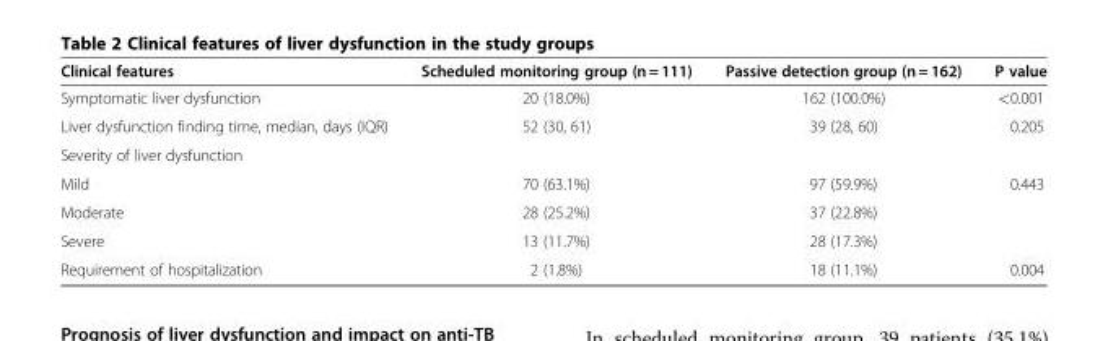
<table><thead><tr><td>Clinical features</td><td>Scheduled monitoring group (n = 111)</td><td>Passive detection group (n = 162)</td><td>P value</td></tr></thead><tbody><tr><td>Symptomatic liver dysfunction</td><td>20 (18.0%)</td><td>162 (100.0%)</td><td>&lt;0.001</td></tr><tr><td>Liver dysfunction finding time, median, days (IQR)</td><td>52 (30, 61)</td><td>39 (28, 60)</td><td>0.205</td></tr><tr><td colspan="4">Severity of liver dysfunction</td></tr><tr><td>Mild</td><td>70 (63.1%)</td><td>97 (59.9%)</td><td>0.443</td></tr><tr><td>Moderate</td><td>28 (25.2%)</td><td>37 (22.8%)</td><td></td></tr><tr><td>Severe</td><td>13 (11.7%)</td><td>28 (17.3%)</td><td></td></tr><tr><td>Requirement of hospitalization</td><td>2 (1.8%)</td><td>18 (11.1%)</td><td>0.004</td></tr></tbody></table>